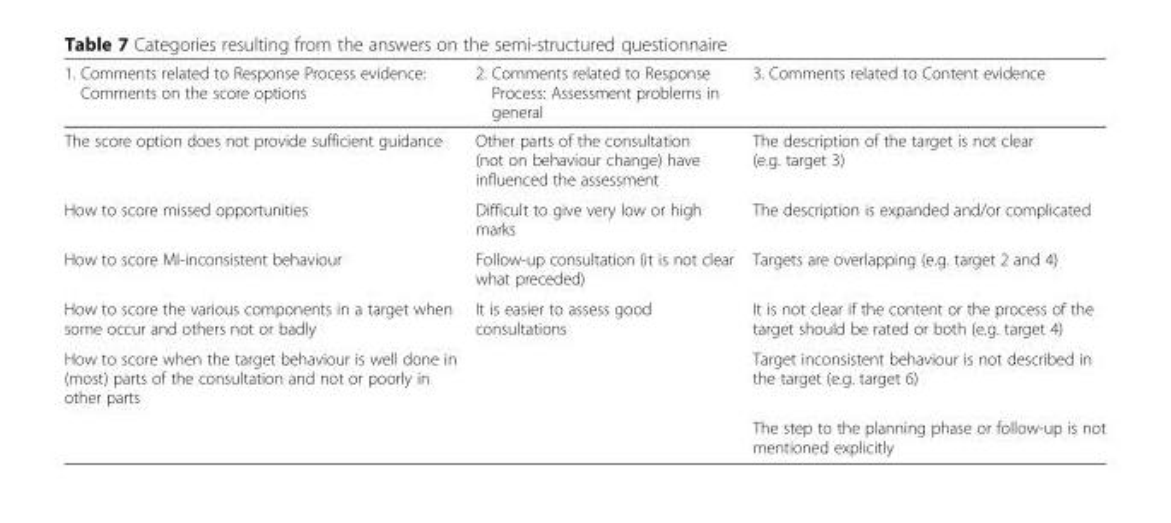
<table><thead><tr><td>1. Comments related to Response Process evidence: Comments on the score options</td><td>2. Comments related to Response Process: Assessment problems in general</td><td>3. Comments related to Content evidence</td></tr></thead><tbody><tr><td>The score option does not provide sufficient guidance</td><td>Other parts of the consultation (not on behaviour change) have influenced the assessment</td><td>The description of the target is not clear (e.g. target 3)</td></tr><tr><td>How to score missed opportunities</td><td>Difficult to give very low or high marks</td><td>The description is expanded and/or complicated</td></tr><tr><td>How to score MI-inconsistent behaviour</td><td>Follow-up consultation (it is not clear what preceded)</td><td>Targets are overlapping (e.g. target 2 and 4)</td></tr><tr><td>How to score the various components in a target when some occur and others not or badly</td><td>It is easier to assess good consultations</td><td>It is not clear if the content or the process of the target should be rated or both (e.g. target 4)</td></tr><tr><td rowspan="2">How to score when the target behaviour is well done in (most) parts of the consultation and not or poorly in other parts</td><td></td><td>Target inconsistent behaviour is not described in the target (e.g. target 6)</td></tr><tr><td></td><td>The step to the planning phase or follow-up is not mentioned explicitly</td></tr></tbody></table>